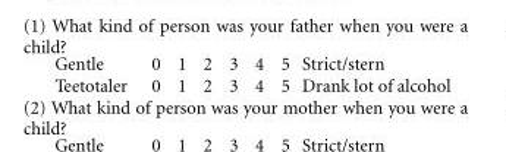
<table><tbody><tr><td>Gentle</td><td>0</td><td>1</td><td>2</td><td>3</td><td>4</td><td>5</td><td>Strict/stern</td></tr><tr><td>Teetotaler</td><td>0</td><td>1</td><td>2</td><td>3</td><td>4</td><td>5</td><td>Drank lot of alcohol</td></tr></tbody></table>